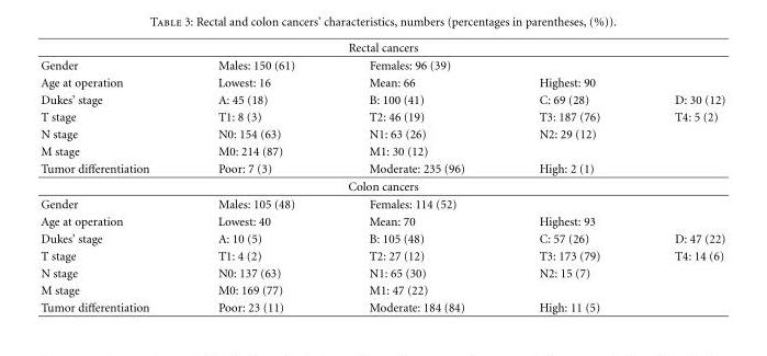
<table><thead><tr><td colspan="5">Rectal cancers</td></tr><tr><td>Gender</td><td>Males: 150 (61)</td><td>Females: 96 (39)</td><td></td><td></td></tr></thead><tbody><tr><td>Age at operation</td><td>Lowest: 16</td><td>Mean: 66</td><td>Highest: 90</td><td></td></tr><tr><td>Dukes’ stage</td><td>A: 45 (18)</td><td>B: 100 (41)</td><td>C: 69 (28)</td><td>D: 30 (12)</td></tr><tr><td>T stage</td><td>T1: 8 (3)</td><td>T2: 46 (19)</td><td>T3: 187 (76)</td><td>T4: 5 (2)</td></tr><tr><td>N stage</td><td>N0: 154 (63)</td><td>N1: 63 (26)</td><td>N2: 29 (12)</td><td></td></tr><tr><td>M stage</td><td>M0: 214 (87)</td><td>M1: 30 (12)</td><td></td><td></td></tr><tr><td>Tumor differentiation</td><td>Poor: 7 (3)</td><td>Moderate: 235 (96)</td><td>High: 2 (1)</td><td></td></tr><tr><td colspan="5">Colon cancers</td></tr><tr><td>Gender</td><td>Males: 105 (48)</td><td>Females: 114 (52)</td><td></td><td></td></tr><tr><td>Age at operation</td><td>Lowest: 40</td><td>Mean: 70</td><td>Highest: 93</td><td></td></tr><tr><td>Dukes’ stage</td><td>A: 10 (5)</td><td>B: 105 (48)</td><td>C: 57 (26)</td><td>D: 47 (22)</td></tr><tr><td>T stage</td><td>T1: 4 (2)</td><td>T2: 27 (12)</td><td>T3: 173 (79)</td><td>T4: 14 (6)</td></tr><tr><td>N stage</td><td>N0: 137 (63)</td><td>N1: 65 (30)</td><td>N2: 15 (7)</td><td></td></tr><tr><td>M stage</td><td>M0: 169 (77)</td><td>M1: 47 (22)</td><td></td><td></td></tr><tr><td>Tumor differentiation</td><td>Poor: 23 (11)</td><td>Moderate: 184 (84)</td><td>High: 11 (5)</td><td></td></tr></tbody></table>